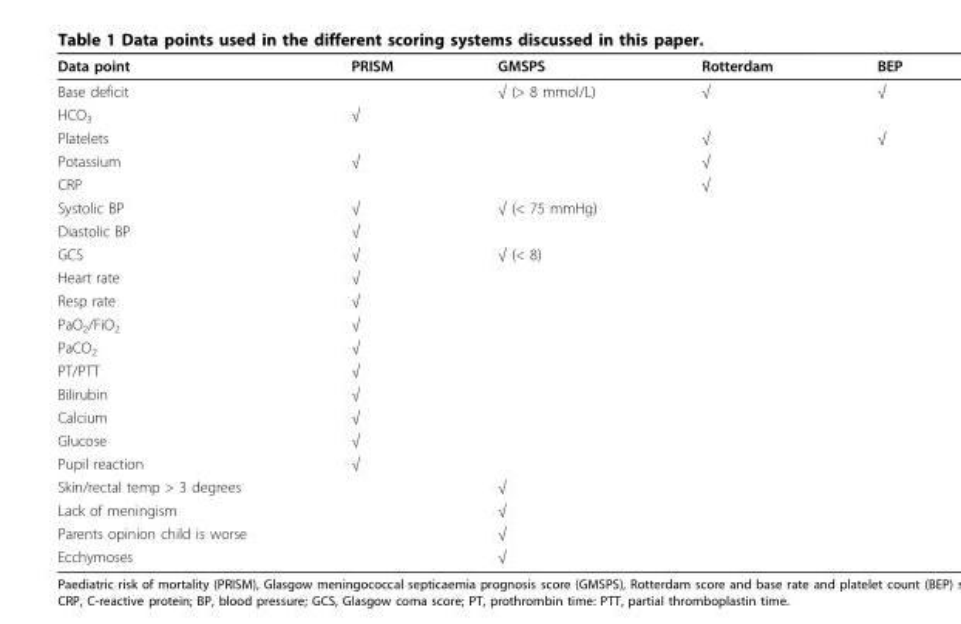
<table><thead><tr><td>Data point</td><td>PRISM</td><td>GMSPS</td><td>Rotterdam</td><td>BEP</td></tr></thead><tbody><tr><td>Base deficit</td><td></td><td>√ (&gt; 8 mmol/L)</td><td>√</td><td>√</td></tr><tr><td>HCO<sub>3</sub></td><td>√</td><td></td><td></td><td></td></tr><tr><td>Platelets</td><td></td><td></td><td>√</td><td>√</td></tr><tr><td>Potassium</td><td>√</td><td></td><td>√</td><td></td></tr><tr><td>CRP</td><td></td><td></td><td>√</td><td></td></tr><tr><td>Systolic BP</td><td>√</td><td>√ (&lt; 75 mmHg)</td><td></td><td></td></tr><tr><td>Diastolic BP</td><td>√</td><td></td><td></td><td></td></tr><tr><td>GCS</td><td>√</td><td>√ (&lt; 8)</td><td></td><td></td></tr><tr><td>Heart rate</td><td>√</td><td></td><td></td><td></td></tr><tr><td>Resp rate</td><td>√</td><td></td><td></td><td></td></tr><tr><td>PaO<sub>2</sub>/FiO<sub>2</sub></td><td>√</td><td></td><td></td><td></td></tr><tr><td>PaCO<sub>2</sub></td><td>√</td><td></td><td></td><td></td></tr><tr><td>PT/PTT</td><td>√</td><td></td><td></td><td></td></tr><tr><td>Bilirubin</td><td>√</td><td></td><td></td><td></td></tr><tr><td>Calcium</td><td>√</td><td></td><td></td><td></td></tr><tr><td>Glucose</td><td>√</td><td></td><td></td><td></td></tr><tr><td>Pupil reaction</td><td>√</td><td></td><td></td><td></td></tr><tr><td>Skin/rectal temp &gt; 3 degrees</td><td></td><td>√</td><td></td><td></td></tr><tr><td>Lack of meningism</td><td></td><td>√</td><td></td><td></td></tr><tr><td>Parents opinion child is worse</td><td></td><td>√</td><td></td><td></td></tr><tr><td>Ecchymoses</td><td></td><td>√</td><td></td><td></td></tr></tbody></table>